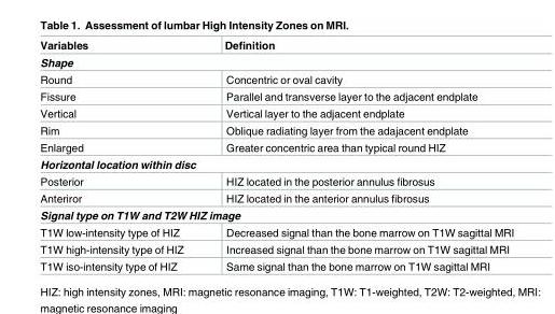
<table><thead><tr><td>Variables</td><td>Definition</td></tr></thead><tbody><tr><td colspan="2">Shape</td></tr><tr><td>Round</td><td>Concentric or oval cavity</td></tr><tr><td>Fissure</td><td>Parallel and transverse layer to the adjacent endplate</td></tr><tr><td>Vertical</td><td>Vertical layer to the adjacent endplate</td></tr><tr><td>Rim</td><td>Oblique radiating layer from the adajacent endplate</td></tr><tr><td>Enlarged</td><td>Greater concentric area than typical round HIZ</td></tr><tr><td colspan="2">Horizontal location within disc</td></tr><tr><td>Posterior</td><td>HIZ located in the posterior annulus fibrosus</td></tr><tr><td>Anteriror</td><td>HIZ located in the anterior annulus fibrosus</td></tr><tr><td colspan="2">Signal type on T1W and T2W HIZ image</td></tr><tr><td>T1W low-intensity type of HIZ</td><td>Decreased signal than the bone marrow on T1W sagittal MRI</td></tr><tr><td>T1W high-intensity type of HIZ</td><td>Increased signal than the bone marrow on T1W sagittal MRI</td></tr><tr><td>T1W iso-intensity type of HIZ</td><td>Same signal than the bone marrow on T1W sagittal MRI</td></tr></tbody></table>